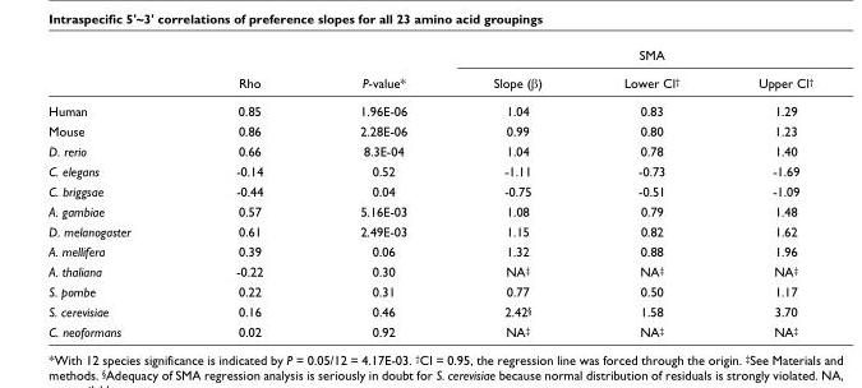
<table><thead><tr><td rowspan="2"></td><td rowspan="2">Rho</td><td rowspan="2">P-value*</td><td colspan="3">SMA</td></tr><tr><td>Slope (β)</td><td>Lower Cl<sup>†</sup></td><td>Upper Cl<sup>†</sup></td></tr></thead><tbody><tr><td>Human</td><td>0.85</td><td>1.96E-06</td><td>1.04</td><td>0.83</td><td>1.29</td></tr><tr><td>Mouse</td><td>0.86</td><td>2.28E-06</td><td>0.99</td><td>0.80</td><td>1.23</td></tr><tr><td>D. rerio</td><td>0.66</td><td>8.3E-04</td><td>1.04</td><td>0.78</td><td>1.40</td></tr><tr><td>C. elegans</td><td>-0.14</td><td>0.52</td><td>-1.11</td><td>-0.73</td><td>-1.69</td></tr><tr><td>C. briggsae</td><td>-0.44</td><td>0.04</td><td>-0.75</td><td>-0.51</td><td>-1.09</td></tr><tr><td>A. gambiae</td><td>0.57</td><td>5.16E-03</td><td>1.08</td><td>0.79</td><td>1.48</td></tr><tr><td>D. melanogaster</td><td>0.61</td><td>2.49E-03</td><td>1.15</td><td>0.82</td><td>1.62</td></tr><tr><td>A. mellifera</td><td>0.39</td><td>0.06</td><td>1.32</td><td>0.88</td><td>1.96</td></tr><tr><td>A. thaliana</td><td>-0.22</td><td>0.30</td><td>NA<sup>‡</sup></td><td>NA<sup>‡</sup></td><td>NA<sup>‡</sup></td></tr><tr><td>S. pombe</td><td>0.22</td><td>0.31</td><td>0.77</td><td>0.50</td><td>1.17</td></tr><tr><td>S. cerevisiae</td><td>0.16</td><td>0.46</td><td>2.42<sup>§</sup></td><td>1.58</td><td>3.70</td></tr><tr><td>C. neoformans</td><td>0.02</td><td>0.92</td><td>NA<sup>‡</sup></td><td>NA<sup>‡</sup></td><td>NA<sup>‡</sup></td></tr></tbody></table>